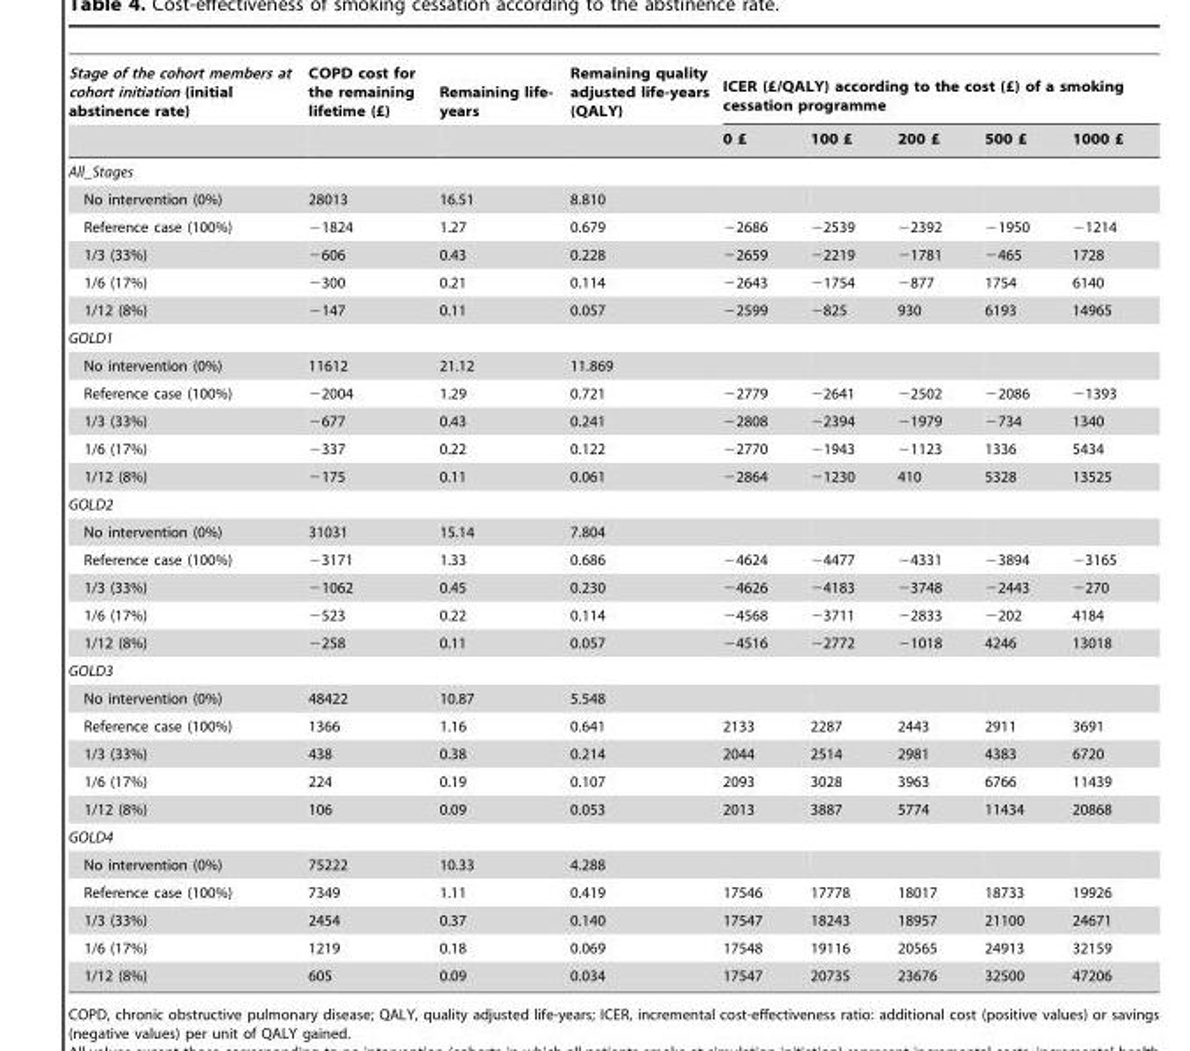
<table><thead><tr><td rowspan="2">Stage of the cohort members at cohort initiation (initial abstinence rate)</td><td rowspan="2">COPD cost for the remaining lifetime (£)</td><td rowspan="2">Remaining life- years</td><td rowspan="2">Remaining quality adjusted life-years (QALY)</td><td colspan="5">ICER (£/QALY) according to the cost (£) of a smoking cessation programme</td></tr><tr><td>0 £</td><td>100 £</td><td>200 £</td><td>500 £</td><td>1000 £</td></tr></thead><tbody><tr><td colspan="9">All_Stages</td></tr><tr><td>No intervention (0%)</td><td>28013</td><td>16.51</td><td>8.810</td><td></td><td></td><td></td><td></td><td></td></tr><tr><td>Reference case (100%)</td><td>−1824</td><td>1.27</td><td>0.679</td><td>−2686</td><td>−2539</td><td>−2392</td><td>−1950</td><td>−1214</td></tr><tr><td>1/3 (33%)</td><td>−606</td><td>0.43</td><td>0.228</td><td>−2659</td><td>−2219</td><td>−1781</td><td>−465</td><td>1728</td></tr><tr><td>1/6 (17%)</td><td>−300</td><td>0.21</td><td>0.114</td><td>−2643</td><td>−1754</td><td>−877</td><td>1754</td><td>6140</td></tr><tr><td>1/12 (8%)</td><td>−147</td><td>0.11</td><td>0.057</td><td>−2599</td><td>−825</td><td>930</td><td>6193</td><td>14965</td></tr><tr><td colspan="9">GOLD1</td></tr><tr><td>No intervention (0%)</td><td>11612</td><td>21.12</td><td>11.869</td><td></td><td></td><td></td><td></td><td></td></tr><tr><td>Reference case (100%)</td><td>−2004</td><td>1.29</td><td>0.721</td><td>−2779</td><td>−2641</td><td>−2502</td><td>−2086</td><td>−1393</td></tr><tr><td>1/3 (33%)</td><td>−677</td><td>0.43</td><td>0.241</td><td>−2808</td><td>−2394</td><td>−1979</td><td>−734</td><td>1340</td></tr><tr><td>1/6 (17%)</td><td>−337</td><td>0.22</td><td>0.122</td><td>−2770</td><td>−1943</td><td>−1123</td><td>1336</td><td>5434</td></tr><tr><td>1/12 (8%)</td><td>−175</td><td>0.11</td><td>0.061</td><td>−2864</td><td>−1230</td><td>410</td><td>5328</td><td>13525</td></tr><tr><td colspan="9">GOLD2</td></tr><tr><td>No intervention (0%)</td><td>31031</td><td>15.14</td><td>7.804</td><td></td><td></td><td></td><td></td><td></td></tr><tr><td>Reference case (100%)</td><td>−3171</td><td>1.33</td><td>0.686</td><td>−4624</td><td>−4477</td><td>−4331</td><td>−3894</td><td>−3165</td></tr><tr><td>1/3 (33%)</td><td>−1062</td><td>0.45</td><td>0.230</td><td>−4626</td><td>−4183</td><td>−3748</td><td>−2443</td><td>−270</td></tr><tr><td>1/6 (17%)</td><td>−523</td><td>0.22</td><td>0.114</td><td>−4568</td><td>−3711</td><td>−2833</td><td>−202</td><td>4184</td></tr><tr><td>1/12 (8%)</td><td>−258</td><td>0.11</td><td>0.057</td><td>−4516</td><td>−2772</td><td>−1018</td><td>4246</td><td>13018</td></tr><tr><td colspan="9">GOLD3</td></tr><tr><td>No intervention (0%)</td><td>48422</td><td>10.87</td><td>5.548</td><td></td><td></td><td></td><td></td><td></td></tr><tr><td>Reference case (100%)</td><td>1366</td><td>1.16</td><td>0.641</td><td>2133</td><td>2287</td><td>2443</td><td>2911</td><td>3691</td></tr><tr><td>1/3 (33%)</td><td>438</td><td>0.38</td><td>0.214</td><td>2044</td><td>2514</td><td>2981</td><td>4383</td><td>6720</td></tr><tr><td>1/6 (17%)</td><td>224</td><td>0.19</td><td>0.107</td><td>2093</td><td>3028</td><td>3963</td><td>6766</td><td>11439</td></tr><tr><td>1/12 (8%)</td><td>106</td><td>0.09</td><td>0.053</td><td>2013</td><td>3887</td><td>5774</td><td>11434</td><td>20868</td></tr><tr><td colspan="9">GOLD4</td></tr><tr><td>No intervention (0%)</td><td>75222</td><td>10.33</td><td>4.288</td><td></td><td></td><td></td><td></td><td></td></tr><tr><td>Reference case (100%)</td><td>7349</td><td>1.11</td><td>0.419</td><td>17546</td><td>17778</td><td>18017</td><td>18733</td><td>19926</td></tr><tr><td>1/3 (33%)</td><td>2454</td><td>0.37</td><td>0.140</td><td>17547</td><td>18243</td><td>18957</td><td>21100</td><td>24671</td></tr><tr><td>1/6 (17%)</td><td>1219</td><td>0.18</td><td>0.069</td><td>17548</td><td>19116</td><td>20565</td><td>24913</td><td>32159</td></tr><tr><td>1/12 (8%)</td><td>605</td><td>0.09</td><td>0.034</td><td>17547</td><td>20735</td><td>23676</td><td>32500</td><td>47206</td></tr></tbody></table>